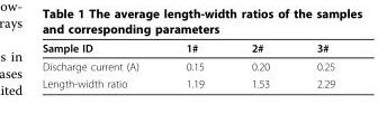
<table><thead><tr><td>Sample ID</td><td>1#</td><td>2#</td><td>3#</td></tr></thead><tbody><tr><td>Discharge current (A)</td><td>0.15</td><td>0.20</td><td>0.25</td></tr><tr><td>Length-width ratio</td><td>1.19</td><td>1.53</td><td>2.29</td></tr></tbody></table>